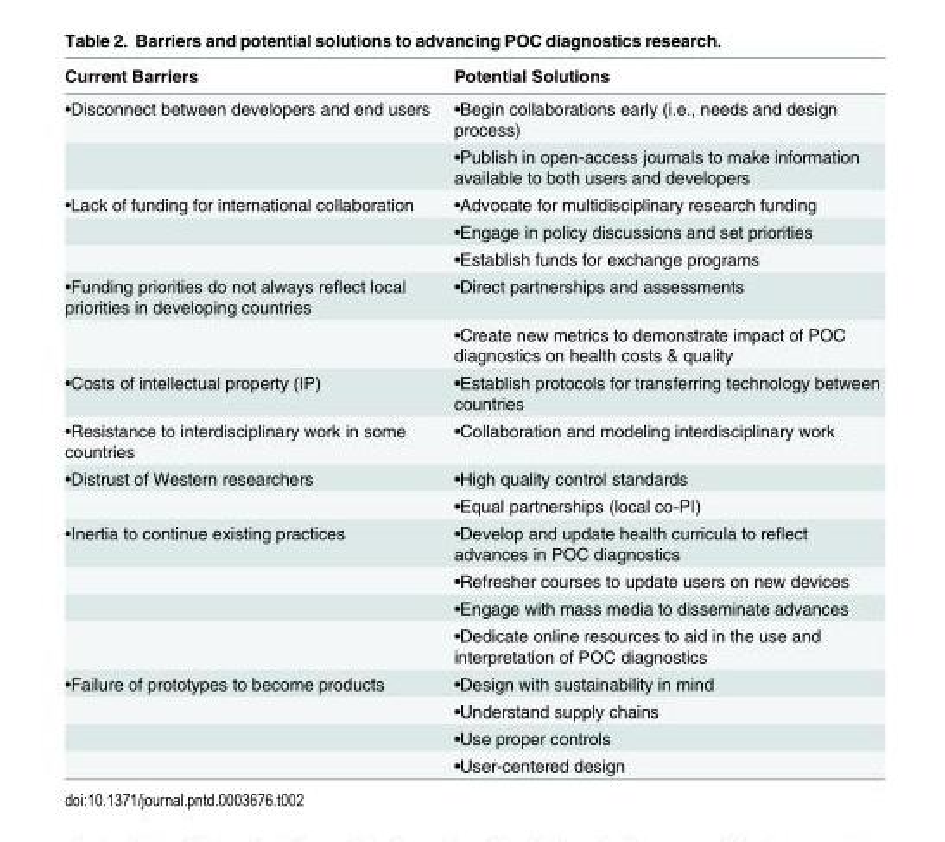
<table><thead><tr><td>Current Barriers</td><td>Potential Solutions</td></tr></thead><tbody><tr><td rowspan="2">•Disconnect between developers and end users</td><td>•Begin collaborations early (i.e., needs and design process)</td></tr><tr><td>•Publish in open-access journals to make information available to both users and developers</td></tr><tr><td rowspan="3">•Lack of funding for international collaboration</td><td>•Advocate for multidisciplinary research funding</td></tr><tr><td>•Engage in policy discussions and set priorities</td></tr><tr><td>•Establish funds for exchange programs</td></tr><tr><td rowspan="2">•Funding priorities do not always reflect local priorities in developing countries</td><td>•Direct partnerships and assessments</td></tr><tr><td>•Create new metrics to demonstrate impact of POC diagnostics on health costs &amp; quality</td></tr><tr><td>•Costs of intellectual property (IP)</td><td>•Establish protocols for transferring technology between countries</td></tr><tr><td>•Resistance to interdisciplinary work in some countries</td><td>•Collaboration and modeling interdisciplinary work</td></tr><tr><td rowspan="2">•Distrust of Western researchers</td><td>•High quality control standards</td></tr><tr><td>•Equal partnerships (local co-PI)</td></tr><tr><td rowspan="4">•Inertia to continue existing practices</td><td>•Develop and update health curricula to reflect advances in POC diagnostics</td></tr><tr><td>•Refresher courses to update users on new devices</td></tr><tr><td>•Engage with mass media to disseminate advances</td></tr><tr><td>•Dedicate online resources to aid in the use and interpretation of POC diagnostics</td></tr><tr><td rowspan="4">•Failure of prototypes to become products</td><td>•Design with sustainability in mind</td></tr><tr><td>•Understand supply chains</td></tr><tr><td>•Use proper controls</td></tr><tr><td>•User-centered design</td></tr></tbody></table>